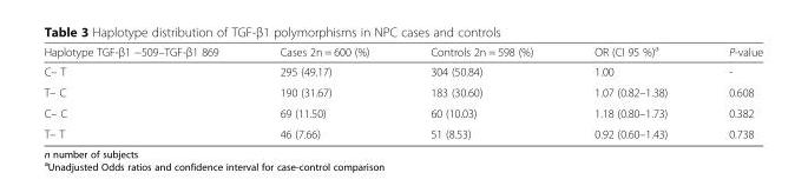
<table><thead><tr><td>Haplotype TGF-β1 −509–TGF-β1 869</td><td>Cases 2n = 600 (%)</td><td>Controls 2n = 598 (%)</td><td>OR (CI 95 %)<sup>a</sup></td><td>P-value</td></tr></thead><tbody><tr><td>C– T</td><td>295 (49.17)</td><td>304 (50.84)</td><td>1.00</td><td>-</td></tr><tr><td>T– C</td><td>190 (31.67)</td><td>183 (30.60)</td><td>1.07 (0.82–1.38)</td><td>0.608</td></tr><tr><td>C– C</td><td>69 (11.50)</td><td>60 (10.03)</td><td>1.18 (0.80–1.73)</td><td>0.382</td></tr><tr><td>T– T</td><td>46 (7.66)</td><td>51 (8.53)</td><td>0.92 (0.60–1.43)</td><td>0.738</td></tr></tbody></table>